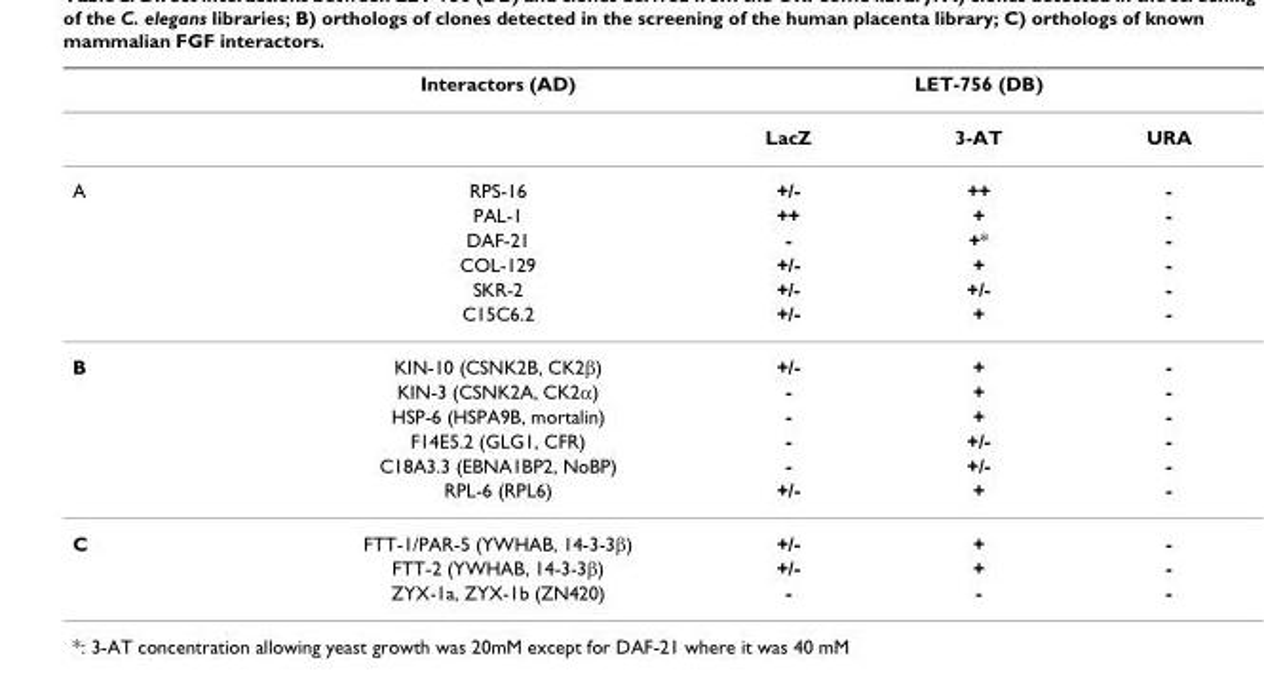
<table><thead><tr><td rowspan="2"></td><td rowspan="2">Interactors (AD)</td><td colspan="3">LET-756 (DB)</td></tr><tr><td>LacZ</td><td>3-AT</td><td>URA</td></tr></thead><tbody><tr><td rowspan="6">A</td><td>RPS-16</td><td>+/-</td><td>++</td><td>-</td></tr><tr><td>PAL-1</td><td>++</td><td>+</td><td>-</td></tr><tr><td>DAF-21</td><td>-</td><td>+*</td><td>-</td></tr><tr><td>COL-129</td><td>+/-</td><td>+</td><td>-</td></tr><tr><td>SKR-2</td><td>+/-</td><td>+/-</td><td>-</td></tr><tr><td>C15C6.2</td><td>+/-</td><td>+</td><td>-</td></tr><tr><td rowspan="6">B</td><td>KIN-10 (CSNK2B, CK2β)</td><td>+/-</td><td>+</td><td>-</td></tr><tr><td>KIN-3 (CSNK2A, CK2α)</td><td>-</td><td>+</td><td>-</td></tr><tr><td>HSP-6 (HSPA9B, mortalin)</td><td>-</td><td>+</td><td>-</td></tr><tr><td>F14E5.2 (GLG1, CFR)</td><td>-</td><td>+/-</td><td>-</td></tr><tr><td>C18A3.3 (EBNA1BP2, NoBP)</td><td>-</td><td>+/-</td><td>-</td></tr><tr><td>RPL-6 (RPL6)</td><td>+/-</td><td>+</td><td>-</td></tr><tr><td rowspan="3">C</td><td>FTT-1/PAR-5 (YWHAB, 14-3-3β)</td><td>+/-</td><td>+</td><td>-</td></tr><tr><td>FTT-2 (YWHAB, 14-3-3β)</td><td>+/-</td><td>+</td><td>-</td></tr><tr><td>ZYX-1a, ZYX-1b (ZN420)</td><td>-</td><td>-</td><td>-</td></tr></tbody></table>